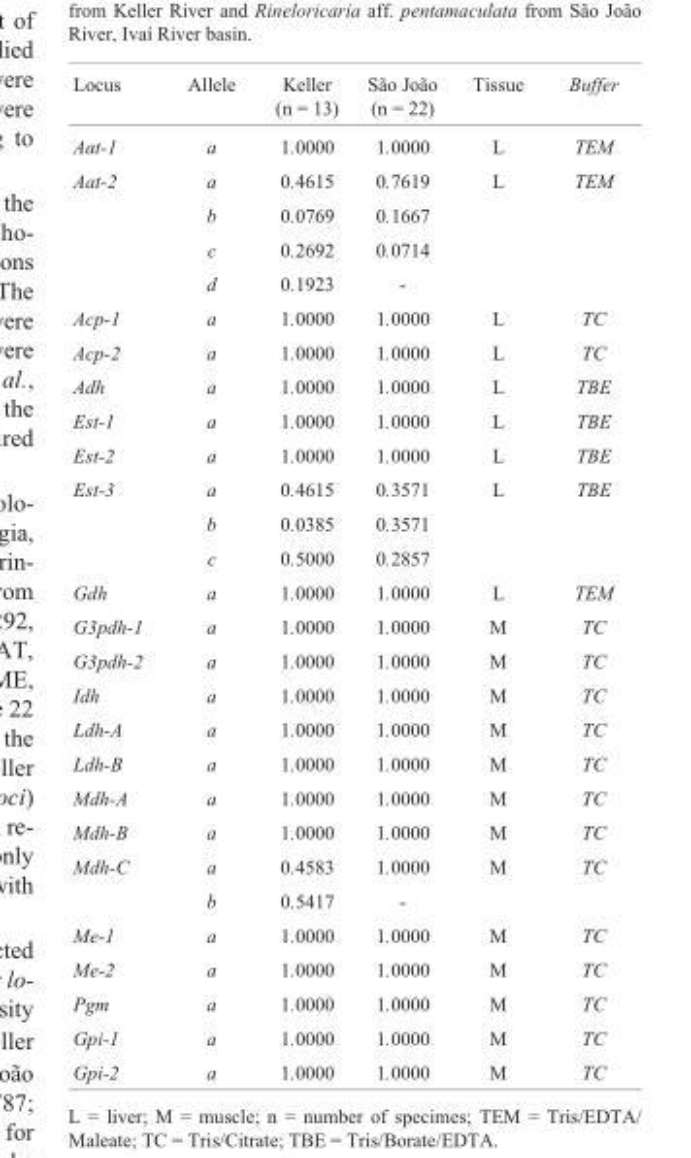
<table><thead><tr><td>Locus</td><td>Allele</td><td>Keller (n = 13)</td><td>São João (n = 22)</td><td>Tissue</td><td>Buffer</td></tr></thead><tbody><tr><td>Aat-1</td><td>a</td><td>1.0000</td><td>1.0000</td><td>L</td><td>TEM</td></tr><tr><td rowspan="4">Aat-2</td><td>a</td><td>0.4615</td><td>0.7619</td><td>L</td><td>TEM</td></tr><tr><td>b</td><td>0.0769</td><td>0.1667</td><td></td><td></td></tr><tr><td>c</td><td>0.2692</td><td>0.0714</td><td></td><td></td></tr><tr><td>d</td><td>0.1923</td><td>-</td><td></td><td></td></tr><tr><td>Acp-1</td><td>a</td><td>1.0000</td><td>1.0000</td><td>L</td><td>TC</td></tr><tr><td>Acp-2</td><td>a</td><td>1.0000</td><td>1.0000</td><td>L</td><td>TC</td></tr><tr><td>Adh</td><td>a</td><td>1.0000</td><td>1.0000</td><td>L</td><td>TBE</td></tr><tr><td>Est-1</td><td>a</td><td>1.0000</td><td>1.0000</td><td>L</td><td>TBE</td></tr><tr><td>Est-2</td><td>a</td><td>1.0000</td><td>1.0000</td><td>L</td><td>TBE</td></tr><tr><td rowspan="3">Est-3</td><td>a</td><td>0.4615</td><td>0.3571</td><td>L</td><td>TBE</td></tr><tr><td>b</td><td>0.0385</td><td>0.3571</td><td></td><td></td></tr><tr><td>c</td><td>0.5000</td><td>0.2857</td><td></td><td></td></tr><tr><td>Gdh</td><td>a</td><td>1.0000</td><td>1.0000</td><td>L</td><td>TEM</td></tr><tr><td>G3pdh-1</td><td>a</td><td>1.0000</td><td>1.0000</td><td>M</td><td>TC</td></tr><tr><td>G3pdh-2</td><td>a</td><td>1.0000</td><td>1.0000</td><td>M</td><td>TC</td></tr><tr><td>Idh</td><td>a</td><td>1.0000</td><td>1.0000</td><td>M</td><td>TC</td></tr><tr><td>Ldh-A</td><td>a</td><td>1.0000</td><td>1.0000</td><td>M</td><td>TC</td></tr><tr><td>Ldh-B</td><td>a</td><td>1.0000</td><td>1.0000</td><td>M</td><td>TC</td></tr><tr><td>Mdh-A</td><td>a</td><td>1.0000</td><td>1.0000</td><td>M</td><td>TC</td></tr><tr><td>Mdh-B</td><td>a</td><td>1.0000</td><td>1.0000</td><td>M</td><td>TC</td></tr><tr><td rowspan="2">Mdh-C</td><td>a</td><td>0.4583</td><td>1.0000</td><td>M</td><td>TC</td></tr><tr><td>b</td><td>0.5417</td><td>-</td><td></td><td></td></tr><tr><td>Me-1</td><td>a</td><td>1.0000</td><td>1.0000</td><td>M</td><td>TC</td></tr><tr><td>Me-2</td><td>a</td><td>1.0000</td><td>1.0000</td><td>M</td><td>TC</td></tr><tr><td>Pgm</td><td>a</td><td>1.0000</td><td>1.0000</td><td>M</td><td>TC</td></tr><tr><td>Gpi-1</td><td>a</td><td>1.0000</td><td>1.0000</td><td>M</td><td>TC</td></tr><tr><td>Gpi-2</td><td>a</td><td>1.0000</td><td>1.0000</td><td>M</td><td>TC</td></tr></tbody></table>